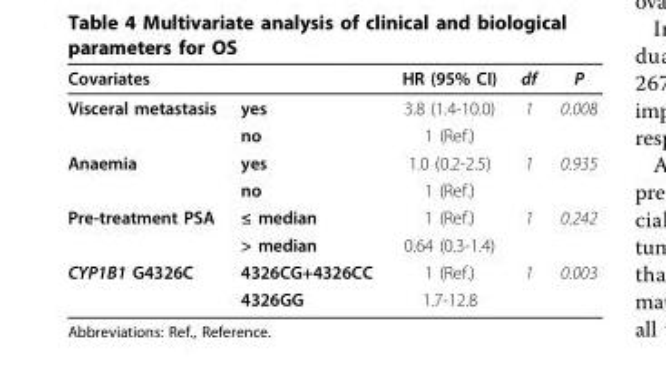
<table><thead><tr><td>Covariates</td><td></td><td>HR (95% CI)</td><td>df</td><td>P</td></tr></thead><tbody><tr><td rowspan="2">Visceral metastasis</td><td>yes</td><td>3.8 (1.4-10.0)</td><td>1</td><td>0.008</td></tr><tr><td>no</td><td>1 (Ref.)</td><td></td><td></td></tr><tr><td rowspan="2">Anaemia</td><td>yes</td><td>1.0 (0.2-2.5)</td><td>1</td><td>0.935</td></tr><tr><td>no</td><td>1 (Ref.)</td><td></td><td></td></tr><tr><td rowspan="2">Pre-treatment PSA</td><td>≤ median</td><td>1 (Ref.)</td><td>1</td><td>0.242</td></tr><tr><td>&gt; median</td><td>0.64 (0.3-1.4)</td><td></td><td></td></tr><tr><td rowspan="2">CYP1B1 G4326C</td><td>4326CG+4326CC</td><td>1 (Ref.)</td><td>1</td><td>0.003</td></tr><tr><td>4326GG</td><td>1.7-12.8</td><td></td><td></td></tr></tbody></table>